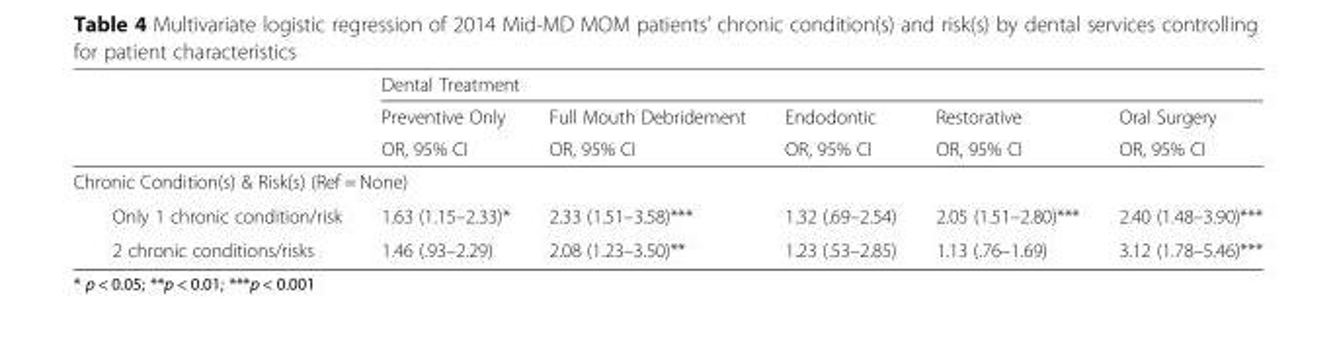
<table><thead><tr><td rowspan="3"></td><td colspan="5">Dental Treatment</td></tr><tr><td rowspan="2">Preventive Only OR, 95% CI</td><td rowspan="2">Full Mouth Debridement OR, 95% CI</td><td rowspan="2">Endodontic OR, 95% CI</td><td rowspan="2">Restorative OR, 95% CI</td><td rowspan="2">Oral Surgery OR, 95% CI</td></tr><tr></tr></thead><tbody><tr><td colspan="6">Chronic Condition(s) &amp; Risk(s) (Ref = None)</td></tr><tr><td>Only 1 chronic condition/risk</td><td>1.63 (1.15–2.33)*</td><td>2.33 (1.51–3.58)***</td><td>1.32 (.69–2.54)</td><td>2.05 (1.51–2.80)***</td><td>2.40 (1.48–3.90)***</td></tr><tr><td>2 chronic conditions/risks</td><td>1.46 (.93–2.29)</td><td>2.08 (1.23–3.50)**</td><td>1.23 (.53–2.85)</td><td>1.13 (.76–1.69)</td><td>3.12 (1.78–5.46)***</td></tr></tbody></table>